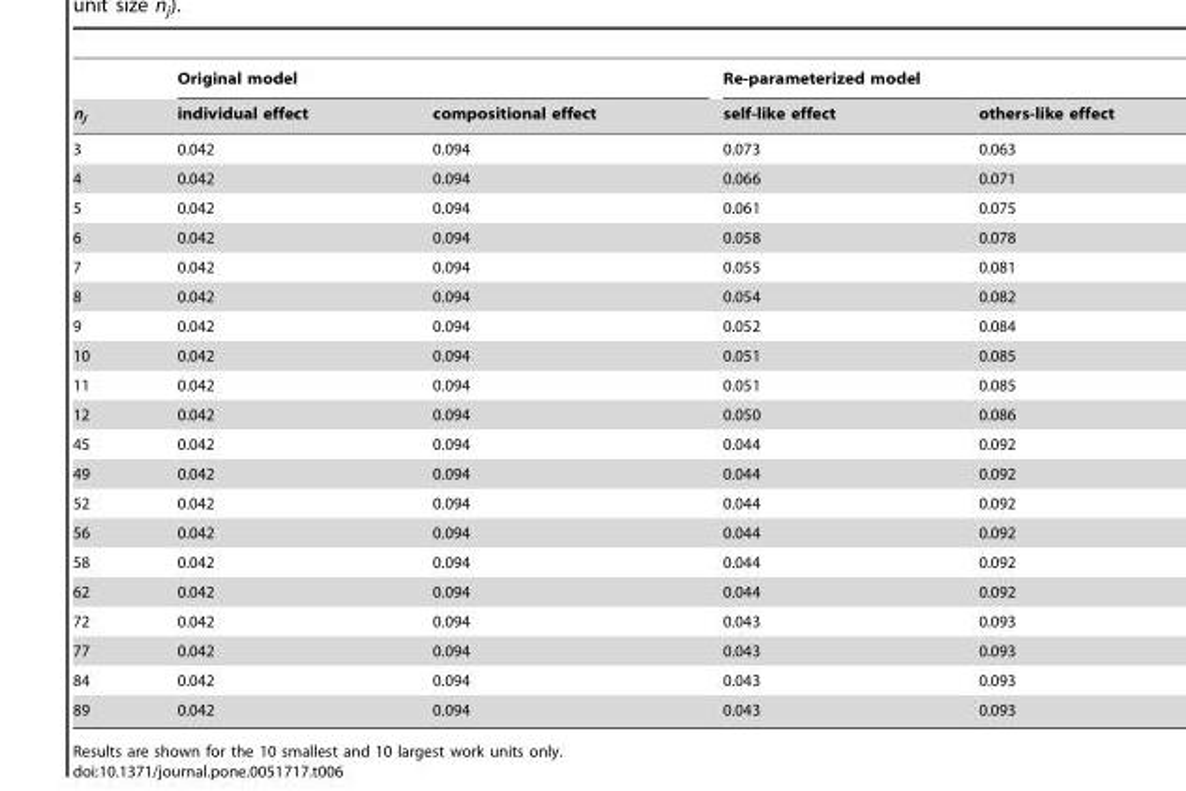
<table><thead><tr><td rowspan="2">n<sub>j</sub></td><td colspan="2">Original model</td><td colspan="2">Re-parameterized model</td></tr><tr><td>individual effect</td><td>compositional effect</td><td>self-like effect</td><td>others-like effect</td></tr></thead><tbody><tr><td>3</td><td>0.042</td><td>0.094</td><td>0.073</td><td>0.063</td></tr><tr><td>4</td><td>0.042</td><td>0.094</td><td>0.066</td><td>0.071</td></tr><tr><td>5</td><td>0.042</td><td>0.094</td><td>0.061</td><td>0.075</td></tr><tr><td>6</td><td>0.042</td><td>0.094</td><td>0.058</td><td>0.078</td></tr><tr><td>7</td><td>0.042</td><td>0.094</td><td>0.055</td><td>0.081</td></tr><tr><td>8</td><td>0.042</td><td>0.094</td><td>0.054</td><td>0.082</td></tr><tr><td>9</td><td>0.042</td><td>0.094</td><td>0.052</td><td>0.084</td></tr><tr><td>10</td><td>0.042</td><td>0.094</td><td>0.051</td><td>0.085</td></tr><tr><td>11</td><td>0.042</td><td>0.094</td><td>0.051</td><td>0.085</td></tr><tr><td>12</td><td>0.042</td><td>0.094</td><td>0.050</td><td>0.086</td></tr><tr><td>45</td><td>0.042</td><td>0.094</td><td>0.044</td><td>0.092</td></tr><tr><td>49</td><td>0.042</td><td>0.094</td><td>0.044</td><td>0.092</td></tr><tr><td>52</td><td>0.042</td><td>0.094</td><td>0.044</td><td>0.092</td></tr><tr><td>56</td><td>0.042</td><td>0.094</td><td>0.044</td><td>0.092</td></tr><tr><td>58</td><td>0.042</td><td>0.094</td><td>0.044</td><td>0.092</td></tr><tr><td>62</td><td>0.042</td><td>0.094</td><td>0.044</td><td>0.092</td></tr><tr><td>72</td><td>0.042</td><td>0.094</td><td>0.043</td><td>0.093</td></tr><tr><td>77</td><td>0.042</td><td>0.094</td><td>0.043</td><td>0.093</td></tr><tr><td>84</td><td>0.042</td><td>0.094</td><td>0.043</td><td>0.093</td></tr><tr><td>89</td><td>0.042</td><td>0.094</td><td>0.043</td><td>0.093</td></tr></tbody></table>